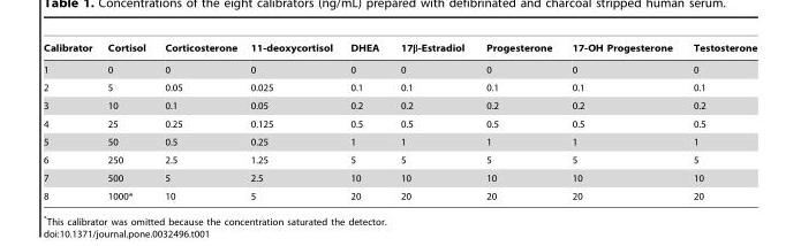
<table><thead><tr><td>Calibrator</td><td>Cortisol</td><td>Corticosterone</td><td>11-deoxycortisol</td><td>DHEA</td><td>17β-Estradiol</td><td>Progesterone</td><td>17-OH Progesterone</td><td>Testosterone</td></tr></thead><tbody><tr><td>1</td><td>0</td><td>0</td><td>0</td><td>0</td><td>0</td><td>0</td><td>0</td><td>0</td></tr><tr><td>2</td><td>5</td><td>0.05</td><td>0.025</td><td>0.1</td><td>0.1</td><td>0.1</td><td>0.1</td><td>0.1</td></tr><tr><td>3</td><td>10</td><td>0.1</td><td>0.05</td><td>0.2</td><td>0.2</td><td>0.2</td><td>0.2</td><td>0.2</td></tr><tr><td>4</td><td>25</td><td>0.25</td><td>0.125</td><td>0.5</td><td>0.5</td><td>0.5</td><td>0.5</td><td>0.5</td></tr><tr><td>5</td><td>50</td><td>0.5</td><td>0.25</td><td>1</td><td>1</td><td>1</td><td>1</td><td>1</td></tr><tr><td>6</td><td>250</td><td>2.5</td><td>1.25</td><td>5</td><td>5</td><td>5</td><td>5</td><td>5</td></tr><tr><td>7</td><td>500</td><td>5</td><td>2.5</td><td>10</td><td>10</td><td>10</td><td>10</td><td>10</td></tr><tr><td>8</td><td>1000*</td><td>10</td><td>5</td><td>20</td><td>20</td><td>20</td><td>20</td><td>20</td></tr></tbody></table>